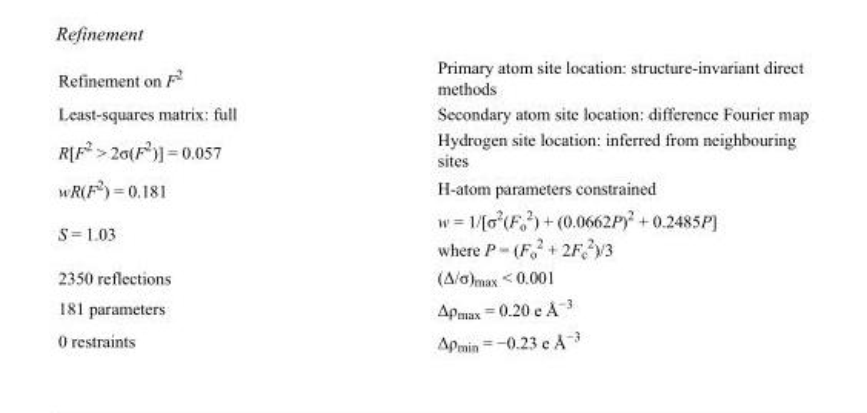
<table><tbody><tr><td>Refinement on F<sup>2</sup></td><td>Primary atom site location: structure-invariant direct methods</td></tr><tr><td>Least-squares matrix: full</td><td>Secondary atom site location: difference Fourier map</td></tr><tr><td>R[F<sup>2</sup> &gt; 2σ(F<sup>2</sup>)] = 0.057</td><td>Hydrogen site location: inferred from neighbouring sites</td></tr><tr><td>wR(F<sup>2</sup>) = 0.181</td><td>H-atom parameters constrained</td></tr><tr><td>S = 1.03</td><td>w = 1/[σ<sup>2</sup>(F<sub>o</sub> <sup>2</sup>) + (0.0662P)<sup>2</sup> + 0.2485P] where P = (F<sub>o</sub> <sup>2</sup> + 2F<sub>c</sub> <sup>2</sup>)/3</td></tr><tr><td>2350 reflections</td><td>(Δ/σ)<sub>max</sub> &lt; 0.001</td></tr><tr><td>181 parameters</td><td>Δρ<sub>max</sub> = 0.20 e Å<sup>−3</sup></td></tr><tr><td>0 restraints</td><td>Δρ<sub>min</sub> = −0.23 e Å<sup>−3</sup></td></tr></tbody></table>